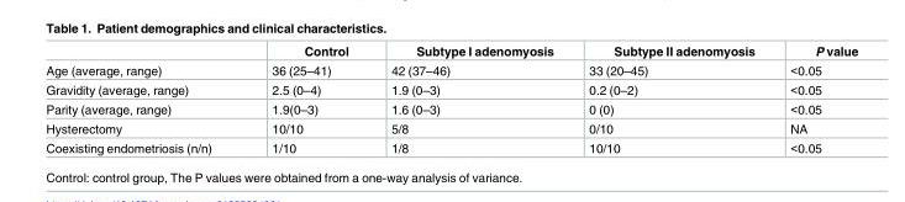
<table><thead><tr><td></td><td>Control</td><td>Subtype I adenomyosis</td><td>Subtype II adenomyosis</td><td>P value</td></tr></thead><tbody><tr><td>Age (average, range)</td><td>36 (25–41)</td><td>42 (37–46)</td><td>33 (20–45)</td><td>&lt;0.05</td></tr><tr><td>Gravidity (average, range)</td><td>2.5 (0–4)</td><td>1.9 (0–3)</td><td>0.2 (0–2)</td><td>&lt;0.05</td></tr><tr><td>Parity (average, range)</td><td>1.9(0–3)</td><td>1.6 (0–3)</td><td>0 (0)</td><td>&lt;0.05</td></tr><tr><td>Hysterectomy</td><td>10/10</td><td>5/8</td><td>0/10</td><td>NA</td></tr><tr><td>Coexisting endometriosis (n/n)</td><td>1/10</td><td>1/8</td><td>10/10</td><td>&lt;0.05</td></tr></tbody></table>